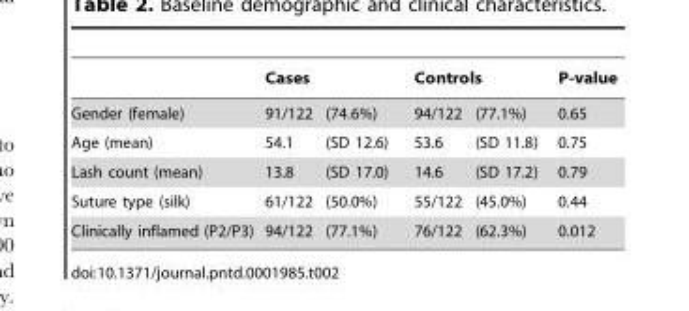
<table><thead><tr><td rowspan="2">Gender (female)</td><td colspan="2">Cases</td><td colspan="2">Controls</td><td rowspan="2">P-value 0.65</td></tr><tr><td>91/122</td><td>(74.6%)</td><td>94/122</td><td>(77.1%)</td></tr></thead><tbody><tr><td>Age (mean)</td><td>54.1</td><td>(SD 12.6)</td><td>53.6</td><td>(SD 11.8)</td><td>0.75</td></tr><tr><td>Lash count (mean)</td><td>13.8</td><td>(SD 17.0)</td><td>14.6</td><td>(SD 17.2)</td><td>0.79</td></tr><tr><td>Suture type (silk)</td><td>61/122</td><td>(50.0%)</td><td>55/122</td><td>(45.0%)</td><td>0.44</td></tr><tr><td>Clinically inflamed (P2/P3)</td><td>94/122</td><td>(77.1%)</td><td>76/122</td><td>(62.3%)</td><td>0.012</td></tr></tbody></table>